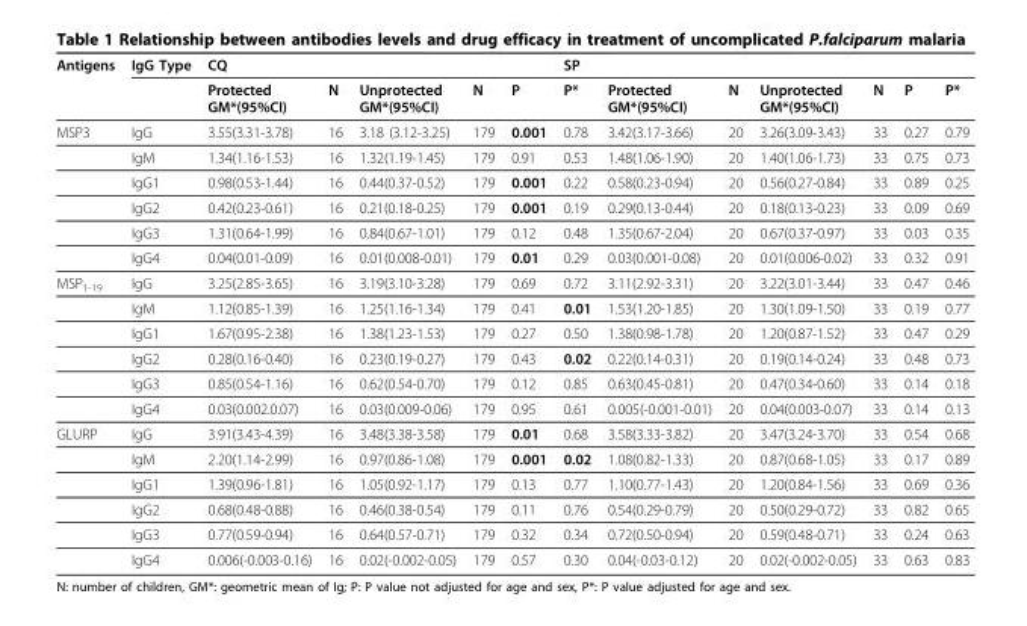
<table><thead><tr><td rowspan="2">Antigens</td><td rowspan="2">IgG Type</td><td colspan="5">CQ</td><td colspan="7">SP</td></tr><tr><td>Protected GM*(95%CI)</td><td>N</td><td>Unprotected GM*(95%CI)</td><td>N</td><td>P</td><td>P*</td><td>Protected GM*(95%CI)</td><td>N</td><td>Unprotected GM*(95%CI)</td><td>N</td><td>P</td><td>P*</td></tr></thead><tbody><tr><td rowspan="6">MSP3</td><td>IgG</td><td>3.55(3.31-3.78)</td><td>16</td><td>3.18 (3.12-3.25)</td><td>179</td><td>0.001</td><td>0.78</td><td>3.42(3.17-3.66)</td><td>20</td><td>3.26(3.09-3.43)</td><td>33</td><td>0.27</td><td>0.79</td></tr><tr><td>IgM</td><td>1.34(1.16-1.53)</td><td>16</td><td>1.32(1.19-1.45)</td><td>179</td><td>0.91</td><td>0.53</td><td>1.48(1.06-1.90)</td><td>20</td><td>1.40(1.06-1.73)</td><td>33</td><td>0.75</td><td>0.73</td></tr><tr><td>IgG1</td><td>0.98(0.53-1.44)</td><td>16</td><td>0.44(0.37-0.52)</td><td>179</td><td>0.001</td><td>0.22</td><td>0.58(0.23-0.94)</td><td>20</td><td>0.56(0.27-0.84)</td><td>33</td><td>0.89</td><td>0.25</td></tr><tr><td>IgG2</td><td>0.42(0.23-0.61)</td><td>16</td><td>0.21(0.18-0.25)</td><td>179</td><td>0.001</td><td>0.19</td><td>0.29(0.13-0.44)</td><td>20</td><td>0.18(0.13-0.23)</td><td>33</td><td>0.09</td><td>0.69</td></tr><tr><td>IgG3</td><td>1.31(0.64-1.99)</td><td>16</td><td>0.84(0.67-1.01)</td><td>179</td><td>0.12</td><td>0.48</td><td>1.35(0.67-2.04)</td><td>20</td><td>0.67(0.37-0.97)</td><td>33</td><td>0.03</td><td>0.35</td></tr><tr><td>IgG4</td><td>0.04(0.01-0.09)</td><td>16</td><td>0.01(0.008-0.01)</td><td>179</td><td>0.01</td><td>0.29</td><td>0.03(0.001-0.08)</td><td>20</td><td>0.01(0.006-0.02)</td><td>33</td><td>0.32</td><td>0.91</td></tr><tr><td rowspan="6">MSP<sub>1-19</sub></td><td>IgG</td><td>3.25(2.85-3.65)</td><td>16</td><td>3.19(3.10-3.28)</td><td>179</td><td>0.69</td><td>0.72</td><td>3.11(2.92-3.31)</td><td>20</td><td>3.22(3.01-3.44)</td><td>33</td><td>0.47</td><td>0.46</td></tr><tr><td>IgM</td><td>1.12(0.85-1.39)</td><td>16</td><td>1.25(1.16-1.34)</td><td>179</td><td>0.41</td><td>0.01</td><td>1.53(1.20-1.85)</td><td>20</td><td>1.30(1.09-1.50)</td><td>33</td><td>0.19</td><td>0.77</td></tr><tr><td>IgG1</td><td>1.67(0.95-2.38)</td><td>16</td><td>1.38(1.23-1.53)</td><td>179</td><td>0.27</td><td>0.50</td><td>1.38(0.98-1.78)</td><td>20</td><td>1.20(0.87-1.52)</td><td>33</td><td>0.47</td><td>0.29</td></tr><tr><td>IgG2</td><td>0.28(0.16-0.40)</td><td>16</td><td>0.23(0.19-0.27)</td><td>179</td><td>0.43</td><td>0.02</td><td>0.22(0.14-0.31)</td><td>20</td><td>0.19(0.14-0.24)</td><td>33</td><td>0.48</td><td>0.73</td></tr><tr><td>IgG3</td><td>0.85(0.54-1.16)</td><td>16</td><td>0.62(0.54-0.70)</td><td>179</td><td>0.12</td><td>0.85</td><td>0.63(0.45-0.81)</td><td>20</td><td>0.47(0.34-0.60)</td><td>33</td><td>0.14</td><td>0.18</td></tr><tr><td>IgG4</td><td>0.03(0.002.0.07)</td><td>16</td><td>0.03(0.009-0.06)</td><td>179</td><td>0.95</td><td>0.61</td><td>0.005(-0.001-0.01)</td><td>20</td><td>0.04(0.003-0.07)</td><td>33</td><td>0.14</td><td>0.13</td></tr><tr><td rowspan="6">GLURP</td><td>IgG</td><td>3.91(3.43-4.39)</td><td>16</td><td>3.48(3.38-3.58)</td><td>179</td><td>0.01</td><td>0.68</td><td>3.58(3.33-3.82)</td><td>20</td><td>3.47(3.24-3.70)</td><td>33</td><td>0.54</td><td>0.68</td></tr><tr><td>IgM</td><td>2.20(1.14-2.99)</td><td>16</td><td>0.97(0.86-1.08)</td><td>179</td><td>0.001</td><td>0.02</td><td>1.08(0.82-1.33)</td><td>20</td><td>0.87(0.68-1.05)</td><td>33</td><td>0.17</td><td>0.89</td></tr><tr><td>IgG1</td><td>1.39(0.96-1.81)</td><td>16</td><td>1.05(0.92-1.17)</td><td>179</td><td>0.13</td><td>0.77</td><td>1.10(0.77-1.43)</td><td>20</td><td>1.20(0.84-1.56)</td><td>33</td><td>0.69</td><td>0.36</td></tr><tr><td>IgG2</td><td>0.68(0.48-0.88)</td><td>16</td><td>0.46(0.38-0.54)</td><td>179</td><td>0.11</td><td>0.76</td><td>0.54(0.29-0.79)</td><td>20</td><td>0.50(0.29-0.72)</td><td>33</td><td>0.82</td><td>0.65</td></tr><tr><td>IgG3</td><td>0.77(0.59-0.94)</td><td>16</td><td>0.64(0.57-0.71)</td><td>179</td><td>0.32</td><td>0.34</td><td>0.72(0.50-0.94)</td><td>20</td><td>0.59(0.48-0.71)</td><td>33</td><td>0.24</td><td>0.63</td></tr><tr><td>IgG4</td><td>0.006(-0.003-0.16)</td><td>16</td><td>0.02(-0.002-0.05)</td><td>179</td><td>0.57</td><td>0.30</td><td>0.04(-0.03-0.12)</td><td>20</td><td>0.02(-0.002-0.05)</td><td>33</td><td>0.63</td><td>0.83</td></tr></tbody></table>